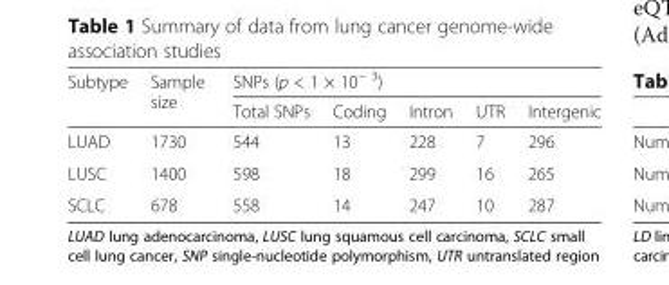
<table><thead><tr><td rowspan="2">Subtype</td><td rowspan="2">Sample size</td><td colspan="5">SNPs (p &lt; 1 × 10<sup>− 3</sup>)</td></tr><tr><td>Total SNPs</td><td>Coding</td><td>Intron</td><td>UTR</td><td>Intergenic</td></tr></thead><tbody><tr><td>LUAD</td><td>1730</td><td>544</td><td>13</td><td>228</td><td>7</td><td>296</td></tr><tr><td>LUSC</td><td>1400</td><td>598</td><td>18</td><td>299</td><td>16</td><td>265</td></tr><tr><td>SCLC</td><td>678</td><td>558</td><td>14</td><td>247</td><td>10</td><td>287</td></tr></tbody></table>